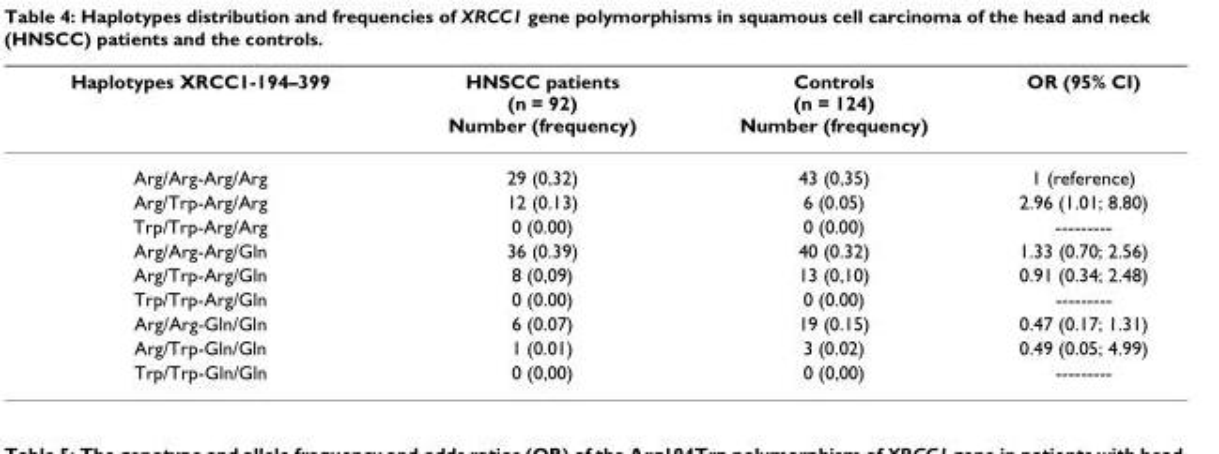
<table><thead><tr><td>Haplotypes XRCC1-194–399</td><td>HNSCC patients (n = 92) Number (frequency)</td><td>Controls (n = 124) Number (frequency)</td><td>OR (95% CI)</td></tr></thead><tbody><tr><td>Arg/Arg-Arg/Arg</td><td>29 (0,32)</td><td>43 (0,35)</td><td>1 (reference)</td></tr><tr><td>Arg/Trp-Arg/Arg</td><td>12 (0.13)</td><td>6 (0.05)</td><td>2.96 (1.01; 8.80)</td></tr><tr><td>Trp/Trp-Arg/Arg</td><td>0 (0.00)</td><td>0 (0.00)</td><td>---------</td></tr><tr><td>Arg/Arg-Arg/Gln</td><td>36 (0.39)</td><td>40 (0.32)</td><td>1.33 (0.70; 2.56)</td></tr><tr><td>Arg/Trp-Arg/Gln</td><td>8 (0,09)</td><td>13 (0,10)</td><td>0.91 (0.34; 2.48)</td></tr><tr><td>Trp/Trp-Arg/Gln</td><td>0 (0.00)</td><td>0 (0.00)</td><td>---------</td></tr><tr><td>Arg/Arg-Gln/Gln</td><td>6 (0.07)</td><td>19 (0.15)</td><td>0.47 (0.17; 1.31)</td></tr><tr><td>Arg/Trp-Gln/Gln</td><td>1 (0.01)</td><td>3 (0.02)</td><td>0.49 (0.05; 4.99)</td></tr><tr><td>Trp/Trp-Gln/Gln</td><td>0 (0,00)</td><td>0 (0,00)</td><td>---------</td></tr></tbody></table>